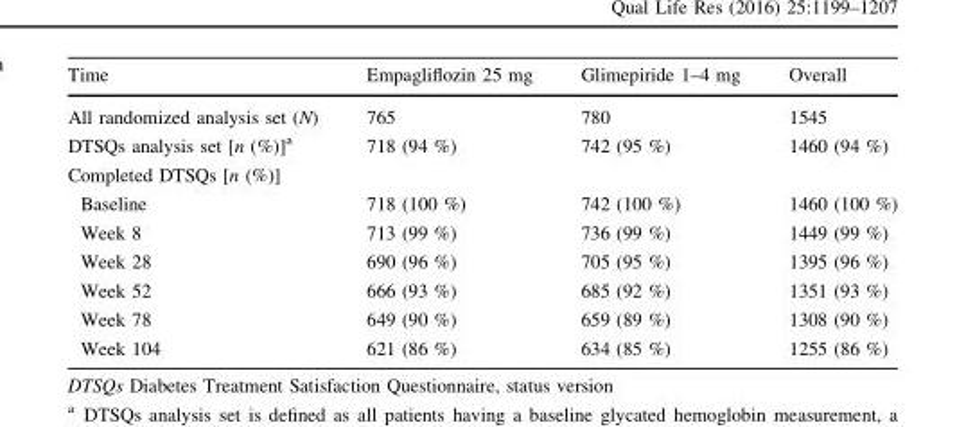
<table><thead><tr><td>Time</td><td>Empagliflozin 25 mg</td><td>Glimepiride 1–4 mg</td><td>Overall</td></tr></thead><tbody><tr><td>All randomized analysis set (N)</td><td>765</td><td>780</td><td>1545</td></tr><tr><td>DTSQs analysis set [n (%)]<sup>a</sup></td><td>718 (94 %)</td><td>742 (95 %)</td><td>1460 (94 %)</td></tr><tr><td colspan="4">Completed DTSQs [n (%)]</td></tr><tr><td>Baseline</td><td>718 (100 %)</td><td>742 (100 %)</td><td>1460 (100 %)</td></tr><tr><td>Week 8</td><td>713 (99 %)</td><td>736 (99 %)</td><td>1449 (99 %)</td></tr><tr><td>Week 28</td><td>690 (96 %)</td><td>705 (95 %)</td><td>1395 (96 %)</td></tr><tr><td>Week 52</td><td>666 (93 %)</td><td>685 (92 %)</td><td>1351 (93 %)</td></tr><tr><td>Week 78</td><td>649 (90 %)</td><td>659 (89 %)</td><td>1308 (90 %)</td></tr><tr><td>Week 104</td><td>621 (86 %)</td><td>634 (85 %)</td><td>1255 (86 %)</td></tr></tbody></table>